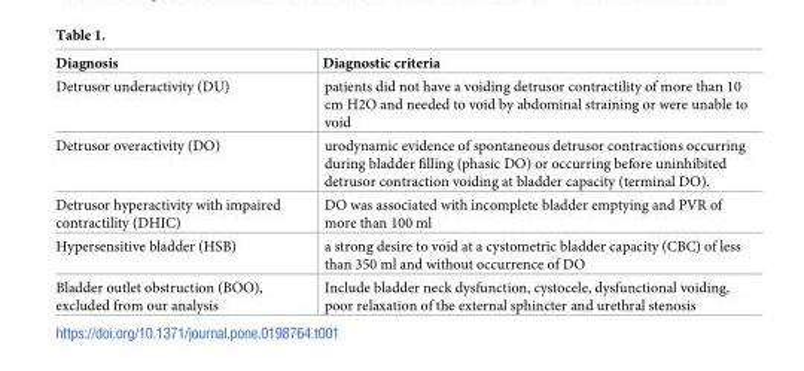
<table><thead><tr><td>Diagnosis</td><td>Diagnostic criteria</td></tr></thead><tbody><tr><td>Detrusor underactivity (DU)</td><td>patients did not have a voiding detrusor contractility of more than 10 cm H2O and needed to void by abdominal straining or were unable to void</td></tr><tr><td>Detrusor overactivity (DO)</td><td>urodynamic evidence of spontaneous detrusor contractions occurring during bladder filling (phasic DO) or occurring before uninhibited detrusor contraction voiding at bladder capacity (terminal DO).</td></tr><tr><td>Detrusor hyperactivity with impaired contractility (DHIC)</td><td>DO was associated with incomplete bladder emptying and PVR of more than 100 ml</td></tr><tr><td>Hypersensitive bladder (HSB)</td><td>a strong desire to void at a cystometric bladder capacity (CBC) of less than 350 ml and without occurrence of DO</td></tr><tr><td>Bladder outlet obstruction (BOO), excluded from our analysis</td><td>Include bladder neck dysfunction, cystocele, dysfunctional voiding, poor relaxation of the external sphincter and urethral stenosis</td></tr></tbody></table>